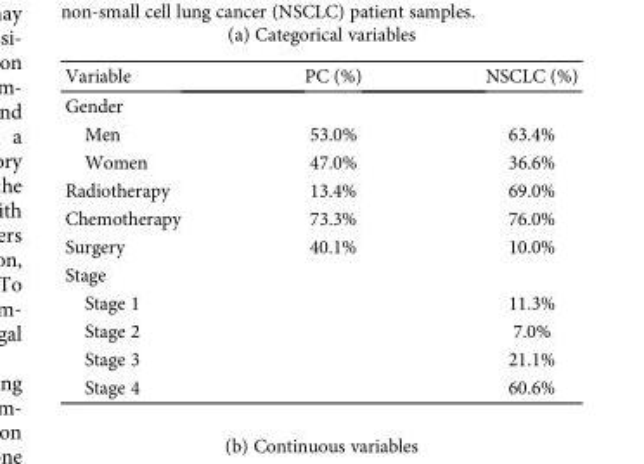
<table><thead><tr><td>Variable</td><td>PC (%)</td><td>NSCLC (%)</td></tr></thead><tbody><tr><td colspan="3">Gender</td></tr><tr><td>Men</td><td>53.0%</td><td>63.4%</td></tr><tr><td>Women</td><td>47.0%</td><td>36.6%</td></tr><tr><td>Radiotherapy</td><td>13.4%</td><td>69.0%</td></tr><tr><td>Chemotherapy</td><td>73.3%</td><td>76.0%</td></tr><tr><td>Surgery</td><td>40.1%</td><td>10.0%</td></tr><tr><td colspan="3">Stage</td></tr><tr><td>Stage 1</td><td></td><td>11.3%</td></tr><tr><td>Stage 2</td><td></td><td>7.0%</td></tr><tr><td>Stage 3</td><td></td><td>21.1%</td></tr><tr><td>Stage 4</td><td></td><td>60.6%</td></tr></tbody></table>